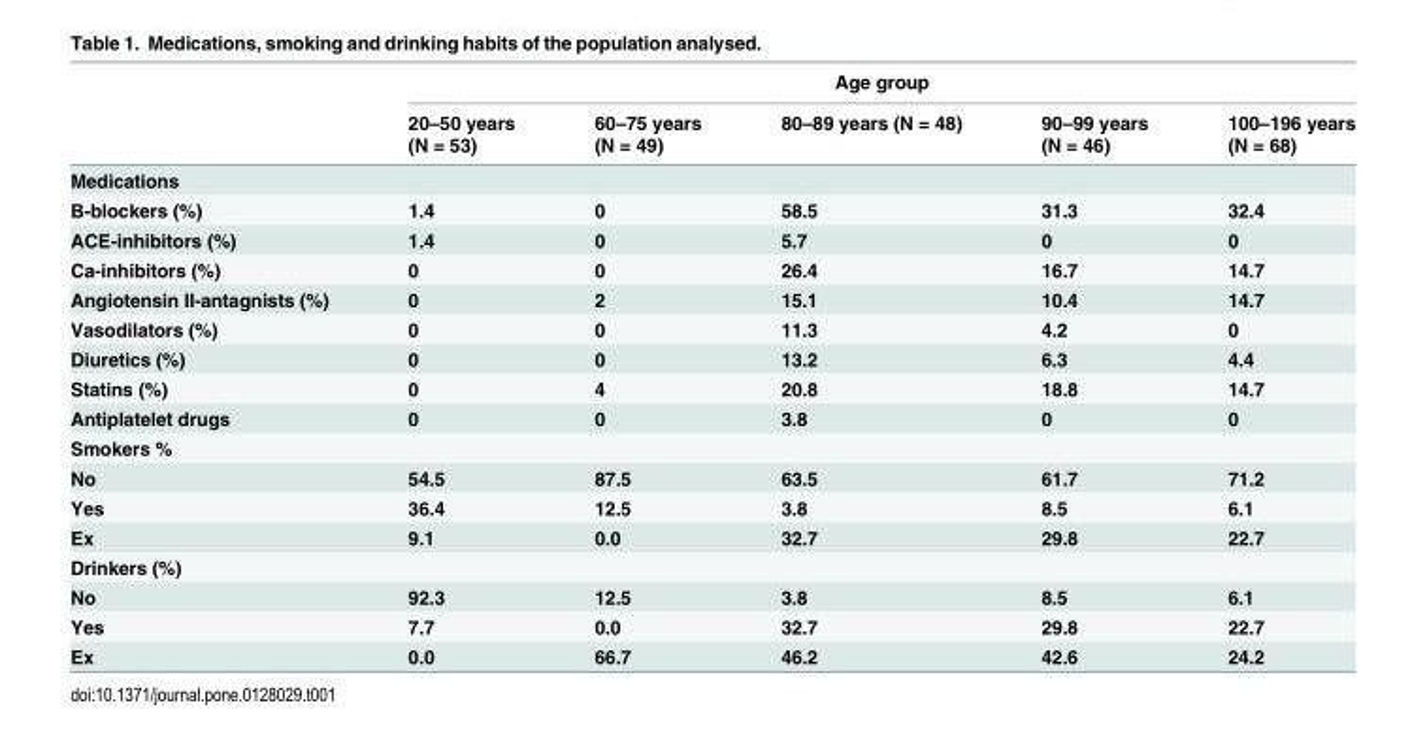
<table><thead><tr><td rowspan="2"></td><td colspan="5">Age group</td></tr><tr><td>20–50 years (N = 53)</td><td>60–75 years (N = 49)</td><td>80–89 years (N = 48)</td><td>90–99 years (N = 46)</td><td>100–196 years (N = 68)</td></tr></thead><tbody><tr><td colspan="6">Medications</td></tr><tr><td>Β-blockers (%)</td><td>1.4</td><td>0</td><td>58.5</td><td>31.3</td><td>32.4</td></tr><tr><td>ACE-inhibitors (%)</td><td>1.4</td><td>0</td><td>5.7</td><td>0</td><td>0</td></tr><tr><td>Ca-inhibitors (%)</td><td>0</td><td>0</td><td>26.4</td><td>16.7</td><td>14.7</td></tr><tr><td>Angiotensin II-antagnists (%)</td><td>0</td><td>2</td><td>15.1</td><td>10.4</td><td>14.7</td></tr><tr><td>Vasodilators (%)</td><td>0</td><td>0</td><td>11.3</td><td>4.2</td><td>0</td></tr><tr><td>Diuretics (%)</td><td>0</td><td>0</td><td>13.2</td><td>6.3</td><td>4.4</td></tr><tr><td>Statins (%)</td><td>0</td><td>4</td><td>20.8</td><td>18.8</td><td>14.7</td></tr><tr><td>Antiplatelet drugs</td><td>0</td><td>0</td><td>3.8</td><td>0</td><td>0</td></tr><tr><td colspan="6">Smokers %</td></tr><tr><td>No</td><td>54.5</td><td>87.5</td><td>63.5</td><td>61.7</td><td>71.2</td></tr><tr><td>Yes</td><td>36.4</td><td>12.5</td><td>3.8</td><td>8.5</td><td>6.1</td></tr><tr><td>Ex</td><td>9.1</td><td>0.0</td><td>32.7</td><td>29.8</td><td>22.7</td></tr><tr><td colspan="6">Drinkers (%)</td></tr><tr><td>No</td><td>92.3</td><td>12.5</td><td>3.8</td><td>8.5</td><td>6.1</td></tr><tr><td>Yes</td><td>7.7</td><td>0.0</td><td>32.7</td><td>29.8</td><td>22.7</td></tr><tr><td>Ex</td><td>0.0</td><td>66.7</td><td>46.2</td><td>42.6</td><td>24.2</td></tr></tbody></table>